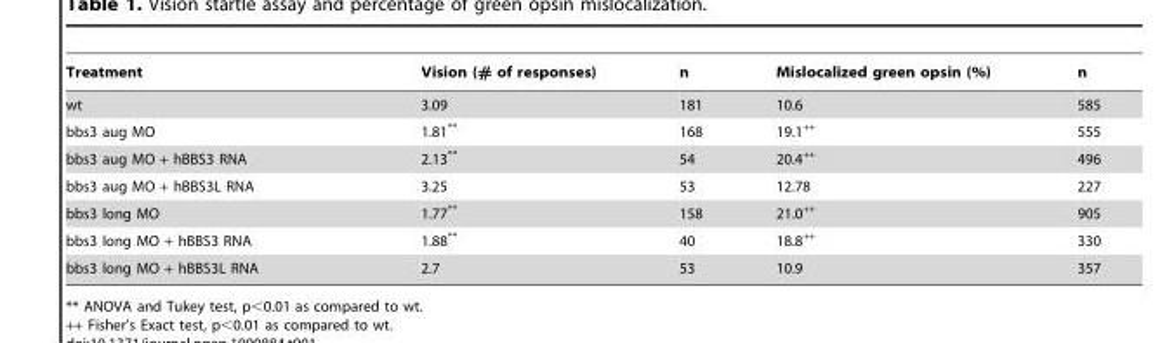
<table><thead><tr><td>Treatment</td><td>Vision (# of responses)</td><td>n</td><td>Mislocalized green opsin (%)</td><td>n</td></tr></thead><tbody><tr><td>wt</td><td>3.09</td><td>181</td><td>10.6</td><td>585</td></tr><tr><td>bbs3 aug MO</td><td>1.81**</td><td>168</td><td>19.1++</td><td>555</td></tr><tr><td>bbs3 aug MO + hBBS3 RNA</td><td>2.13**</td><td>54</td><td>20.4++</td><td>496</td></tr><tr><td>bbs3 aug MO + hBBS3L RNA</td><td>3.25</td><td>53</td><td>12.78</td><td>227</td></tr><tr><td>bbs3 long MO</td><td>1.77**</td><td>158</td><td>21.0++</td><td>905</td></tr><tr><td>bbs3 long MO + hBBS3 RNA</td><td>1.88**</td><td>40</td><td>18.8++</td><td>330</td></tr><tr><td>bbs3 long MO + hBBS3L RNA</td><td>2.7</td><td>53</td><td>10.9</td><td>357</td></tr></tbody></table>